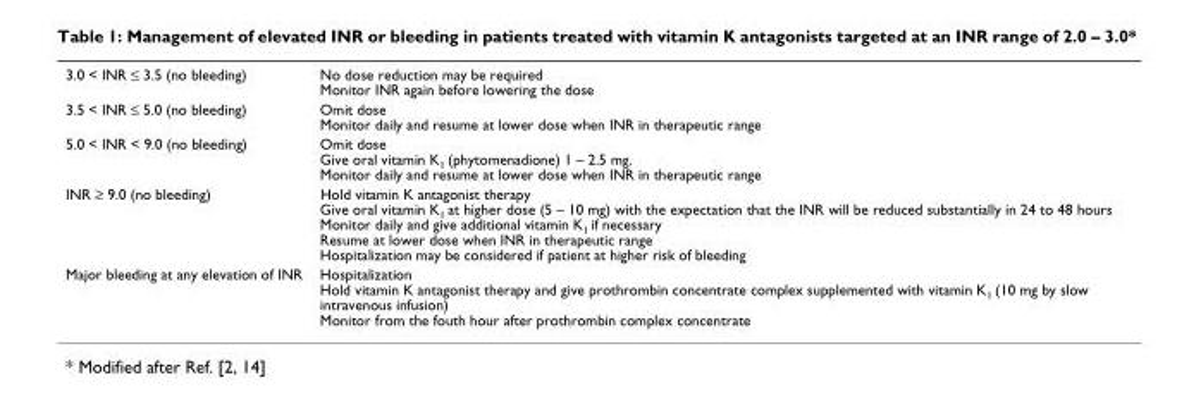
<table><tbody><tr><td>3.0 &lt; INR ≤ 3.5 (no bleeding)</td><td>No dose reduction may be required Monitor INR again before lowering the dose</td></tr><tr><td>3.5 &lt; INR ≤ 5.0 (no bleeding)</td><td>Omit dose Monitor daily and resume at lower dose when INR in therapeutic range</td></tr><tr><td>5.0 &lt; INR &lt; 9.0 (no bleeding)</td><td>Omit dose Give oral vitamin K<sub>1</sub> (phytomenadione) 1 – 2.5 mg. Monitor daily and resume at lower dose when INR in therapeutic range</td></tr><tr><td>INR ≥ 9.0 (no bleeding)</td><td>Hold vitamin K antagonist therapy Give oral vitamin K<sub>1</sub> at higher dose (5 – 10 mg) with the expectation that the INR will be reduced substantially in 24 to 48 hours Monitor daily and give additional vitamin K<sub>1</sub> if necessary Resume at lower dose when INR in therapeutic range Hospitalization may be considered if patient at higher risk of bleeding</td></tr><tr><td>Major bleeding at any elevation of INR</td><td>Hospitalization Hold vitamin K antagonist therapy and give prothrombin concentrate complex supplemented with vitamin K<sub>1</sub> (10 mg by slow intravenous infusion) Monitor from the fouth hour after prothrombin complex concentrate</td></tr></tbody></table>